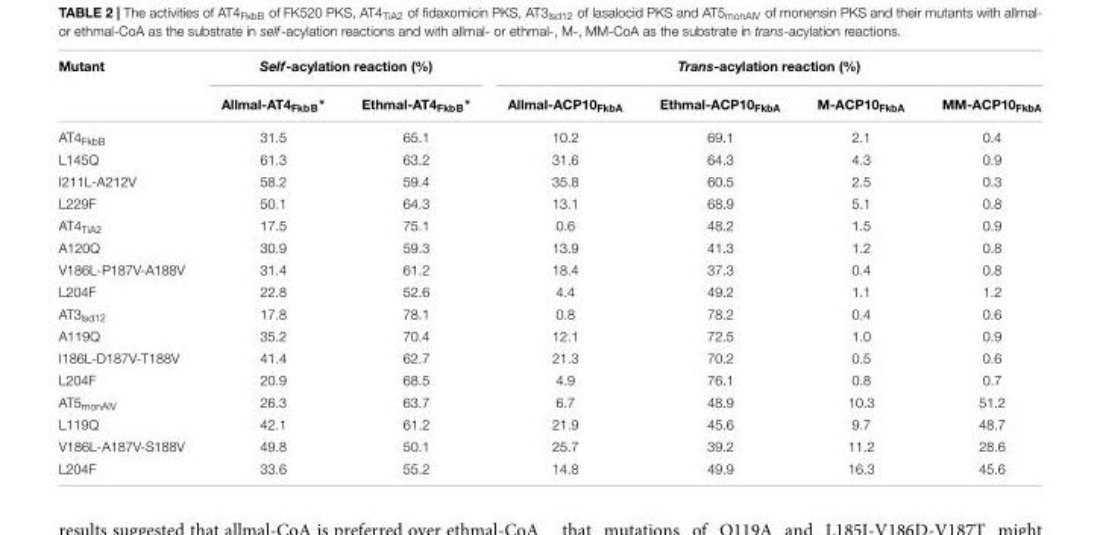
<table><thead><tr><td rowspan="2">Mutant</td><td colspan="2">Self-acylation reaction (%)</td><td colspan="4">Trans-acylation reaction (%)</td></tr><tr><td>Allmal-AT4<sub>FkbB</sub>∗</td><td>Ethmal-AT4<sub>FkbB</sub>∗</td><td>Allmal-ACP10<sub>FkbA</sub></td><td>Ethmal-ACP10<sub>FkbA</sub></td><td>M-ACP10<sub>FkbA</sub></td><td>MM-ACP10<sub>FkbA</sub></td></tr></thead><tbody><tr><td>AT4<sub>FkbB</sub></td><td>31.5</td><td>65.1</td><td>10.2</td><td>69.1</td><td>2.1</td><td>0.4</td></tr><tr><td>L145Q</td><td>61.3</td><td>63.2</td><td>31.6</td><td>64.3</td><td>4.3</td><td>0.9</td></tr><tr><td>I211L-A212V</td><td>58.2</td><td>59.4</td><td>35.8</td><td>60.5</td><td>2.5</td><td>0.3</td></tr><tr><td>L229F</td><td>50.1</td><td>64.3</td><td>13.1</td><td>68.9</td><td>5.1</td><td>0.8</td></tr><tr><td>AT4<sub>TiA2</sub></td><td>17.5</td><td>75.1</td><td>0.6</td><td>48.2</td><td>1.5</td><td>0.9</td></tr><tr><td>A120Q</td><td>30.9</td><td>59.3</td><td>13.9</td><td>41.3</td><td>1.2</td><td>0.8</td></tr><tr><td>V186L-P187V-A188V</td><td>31.4</td><td>61.2</td><td>18.4</td><td>37.3</td><td>0.4</td><td>0.8</td></tr><tr><td>L204F</td><td>22.8</td><td>52.6</td><td>4.4</td><td>49.2</td><td>1.1</td><td>1.2</td></tr><tr><td>AT3<sub>lsd12</sub></td><td>17.8</td><td>78.1</td><td>0.8</td><td>78.2</td><td>0.4</td><td>0.6</td></tr><tr><td>A119Q</td><td>35.2</td><td>70.4</td><td>12.1</td><td>72.5</td><td>1.0</td><td>0.9</td></tr><tr><td>I186L-D187V-T188V</td><td>41.4</td><td>62.7</td><td>21.3</td><td>70.2</td><td>0.5</td><td>0.6</td></tr><tr><td>L204F</td><td>20.9</td><td>68.5</td><td>4.9</td><td>76.1</td><td>0.8</td><td>0.7</td></tr><tr><td>AT5<sub>monAIV</sub></td><td>26.3</td><td>63.7</td><td>6.7</td><td>48.9</td><td>10.3</td><td>51.2</td></tr><tr><td>L119Q</td><td>42.1</td><td>61.2</td><td>21.9</td><td>45.6</td><td>9.7</td><td>48.7</td></tr><tr><td>V186L-A187V-S188V</td><td>49.8</td><td>50.1</td><td>25.7</td><td>39.2</td><td>11.2</td><td>28.6</td></tr><tr><td>L204F</td><td>33.6</td><td>55.2</td><td>14.8</td><td>49.9</td><td>16.3</td><td>45.6</td></tr></tbody></table>